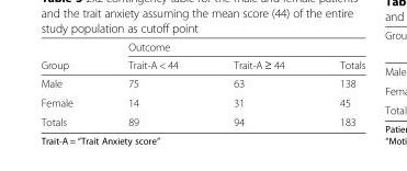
<table><thead><tr><td rowspan="2">Group</td><td colspan="3">Outcome</td></tr><tr><td>Trait-A &lt; 44</td><td>Trait-A ≥ 44</td><td>Totals</td></tr></thead><tbody><tr><td>Male</td><td>75</td><td>63</td><td>138</td></tr><tr><td>Female</td><td>14</td><td>31</td><td>45</td></tr><tr><td>Totals</td><td>89</td><td>94</td><td>183</td></tr></tbody></table>